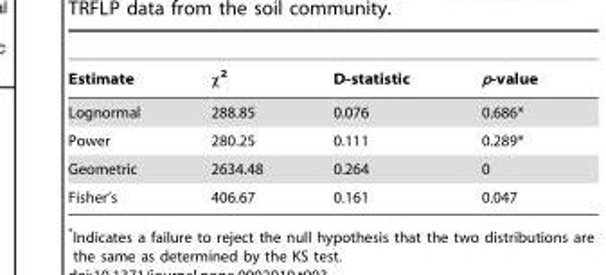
<table><thead><tr><td>Estimate</td><td>χ<sup>2</sup></td><td>D-statistic</td><td>p-value</td></tr></thead><tbody><tr><td>Lognormal</td><td>288.85</td><td>0.076</td><td>0.686*</td></tr><tr><td>Power</td><td>280.25</td><td>0.111</td><td>0.289*</td></tr><tr><td>Geometric</td><td>2634.48</td><td>0.264</td><td>0</td></tr><tr><td>Fisher’s</td><td>406.67</td><td>0.161</td><td>0.047</td></tr></tbody></table>